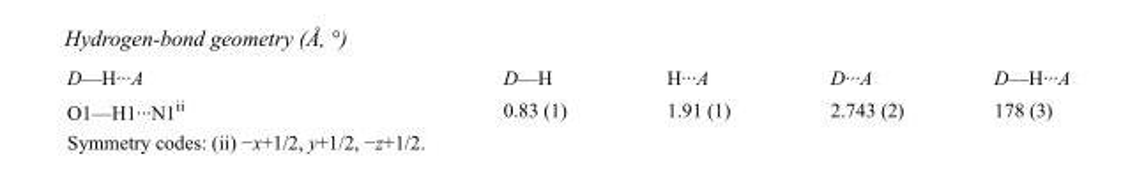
<table><tbody><tr><td>D—H···A</td><td>D—H</td><td>H···A</td><td>D···A</td><td>D—H···A</td></tr><tr><td>O1—H1···N1<sup>ii</sup></td><td>0.83 (1)</td><td>1.91 (1)</td><td>2.743 (2)</td><td>178 (3)</td></tr></tbody></table>